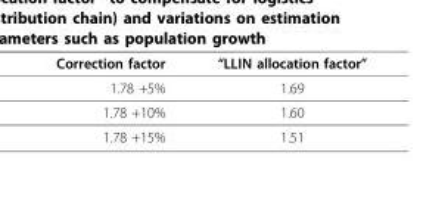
<table><thead><tr><td>Correction factor</td><td>“LLIN allocation factor”</td></tr></thead><tbody><tr><td>1.78 +5%</td><td>1.69</td></tr><tr><td>1.78 +10%</td><td>1.60</td></tr><tr><td>1.78 +15%</td><td>1.51</td></tr></tbody></table>